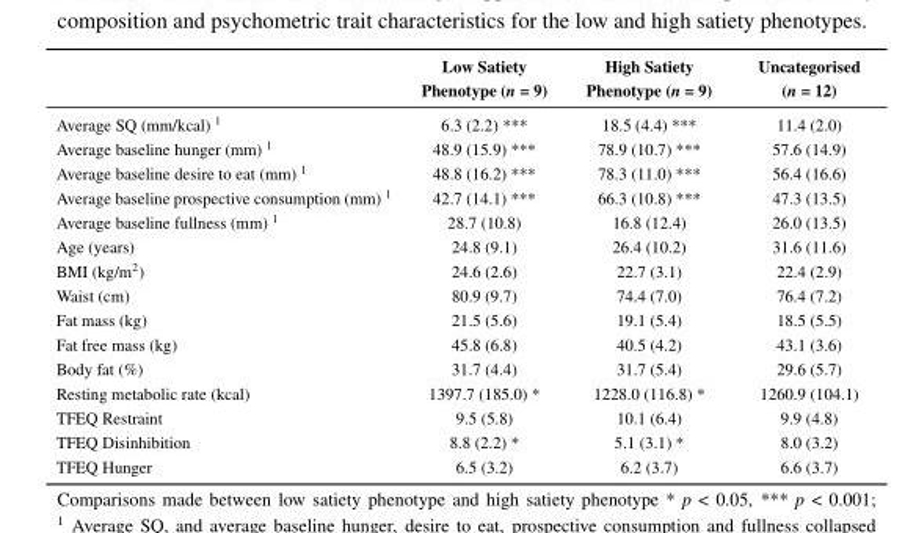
<table><thead><tr><td></td><td>Low Satiety Phenotype (n = 9)</td><td>High Satiety Phenotype (n = 9)</td><td>Uncategorised (n = 12)</td></tr></thead><tbody><tr><td>Average SQ (mm/kcal) <sup>1</sup></td><td>6.3 (2.2) ***</td><td>18.5 (4.4) ***</td><td>11.4 (2.0)</td></tr><tr><td>Average baseline hunger (mm) <sup>1</sup></td><td>48.9 (15.9) ***</td><td>78.9 (10.7) ***</td><td>57.6 (14.9)</td></tr><tr><td>Average baseline desire to eat (mm) <sup>1</sup></td><td>48.8 (16.2) ***</td><td>78.3 (11.0) ***</td><td>56.4 (16.6)</td></tr><tr><td>Average baseline prospective consumption (mm) <sup>1</sup></td><td>42.7 (14.1) ***</td><td>66.3 (10.8) ***</td><td>47.3 (13.5)</td></tr><tr><td>Average baseline fullness (mm) <sup>1</sup></td><td>28.7 (10.8)</td><td>16.8 (12.4)</td><td>26.0 (13.5)</td></tr><tr><td>Age (years)</td><td>24.8 (9.1)</td><td>26.4 (10.2)</td><td>31.6 (11.6)</td></tr><tr><td>BMI (kg/m<sup>2</sup>)</td><td>24.6 (2.6)</td><td>22.7 (3.1)</td><td>22.4 (2.9)</td></tr><tr><td>Waist (cm)</td><td>80.9 (9.7)</td><td>74.4 (7.0)</td><td>76.4 (7.2)</td></tr><tr><td>Fat mass (kg)</td><td>21.5 (5.6)</td><td>19.1 (5.4)</td><td>18.5 (5.5)</td></tr><tr><td>Fat free mass (kg)</td><td>45.8 (6.8)</td><td>40.5 (4.2)</td><td>43.1 (3.6)</td></tr><tr><td>Body fat (%)</td><td>31.7 (4.4)</td><td>31.7 (5.4)</td><td>29.6 (5.7)</td></tr><tr><td>Resting metabolic rate (kcal)</td><td>1397.7 (185.0) *</td><td>1228.0 (116.8) *</td><td>1260.9 (104.1)</td></tr><tr><td>TFEQ Restraint</td><td>9.5 (5.8)</td><td>10.1 (6.4)</td><td>9.9 (4.8)</td></tr><tr><td>TFEQ Disinhibition</td><td>8.8 (2.2) *</td><td>5.1 (3.1) *</td><td>8.0 (3.2)</td></tr><tr><td>TFEQ Hunger</td><td>6.5 (3.2)</td><td>6.2 (3.7)</td><td>6.6 (3.7)</td></tr></tbody></table>